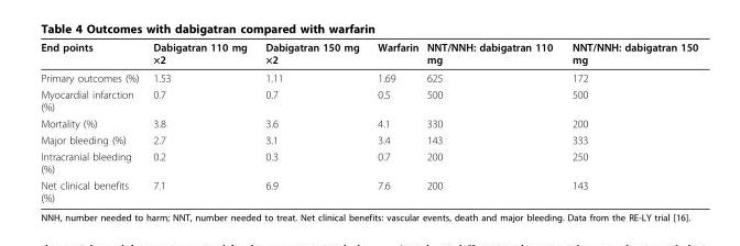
<table><thead><tr><td>End points</td><td>Dabigatran 110 mg ×2</td><td>Dabigatran 150 mg ×2</td><td>Warfarin</td><td>NNT/NNH: dabigatran 110 mg</td><td>NNT/NNH: dabigatran 150 mg</td></tr></thead><tbody><tr><td>Primary outcomes (%)</td><td>1.53</td><td>1.11</td><td>1.69</td><td>625</td><td>172</td></tr><tr><td>Myocardial infarction (%)</td><td>0.7</td><td>0.7</td><td>0.5</td><td>500</td><td>500</td></tr><tr><td>Mortality (%)</td><td>3.8</td><td>3.6</td><td>4.1</td><td>330</td><td>200</td></tr><tr><td>Major bleeding (%)</td><td>2.7</td><td>3.1</td><td>3.4</td><td>143</td><td>333</td></tr><tr><td>Intracranial bleeding (%)</td><td>0.2</td><td>0.3</td><td>0.7</td><td>200</td><td>250</td></tr><tr><td>Net clinical benefits (%)</td><td>7.1</td><td>6.9</td><td>7.6</td><td>200</td><td>143</td></tr></tbody></table>